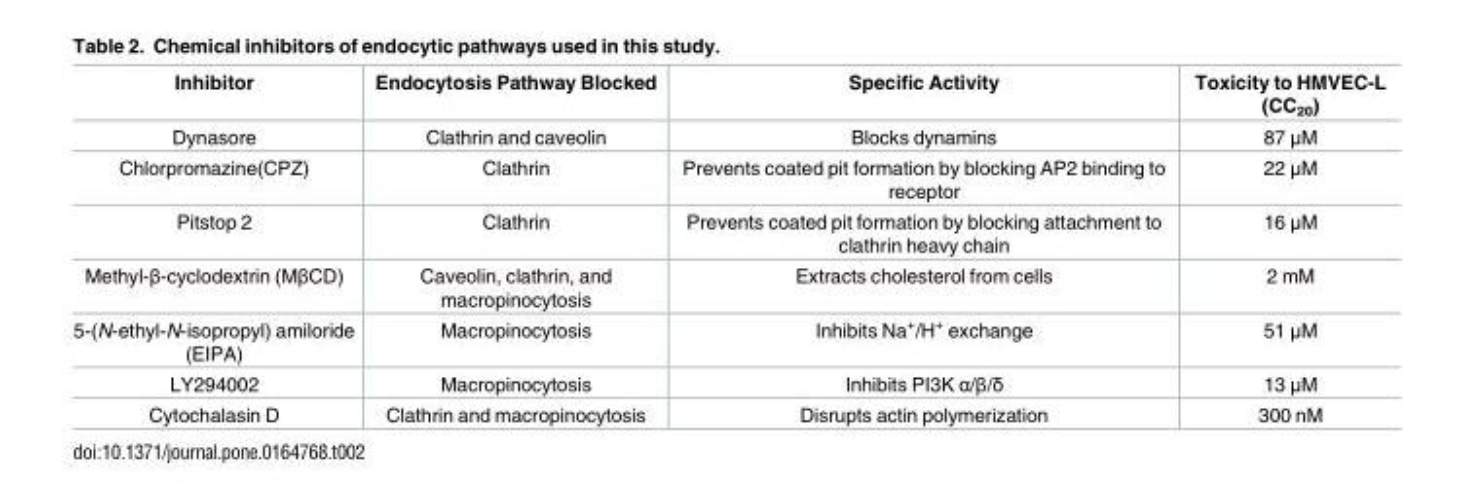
<table><thead><tr><td>Inhibitor</td><td>Endocytosis Pathway Blocked</td><td>Specific Activity</td><td>Toxicity to HMVEC-L (CC<sub>20</sub>)</td></tr></thead><tbody><tr><td>Dynasore</td><td>Clathrin and caveolin</td><td>Blocks dynamins</td><td>87 μM</td></tr><tr><td>Chlorpromazine(CPZ)</td><td>Clathrin</td><td>Prevents coated pit formation by blocking AP2 binding to receptor</td><td>22 μM</td></tr><tr><td>Pitstop 2</td><td>Clathrin</td><td>Prevents coated pit formation by blocking attachment to clathrin heavy chain</td><td>16 μM</td></tr><tr><td>Methyl-β-cyclodextrin (MβCD)</td><td>Caveolin, clathrin, and macropinocytosis</td><td>Extracts cholesterol from cells</td><td>2 mM</td></tr><tr><td>5-(N-ethyl-N-isopropyl) amiloride (EIPA)</td><td>Macropinocytosis</td><td>Inhibits Na<sup>+</sup>/H<sup>+</sup> exchange</td><td>51 μM</td></tr><tr><td>LY294002</td><td>Macropinocytosis</td><td>Inhibits PI3K α/β/δ</td><td>13 μM</td></tr><tr><td>Cytochalasin D</td><td>Clathrin and macropinocytosis</td><td>Disrupts actin polymerization</td><td>300 nM</td></tr></tbody></table>